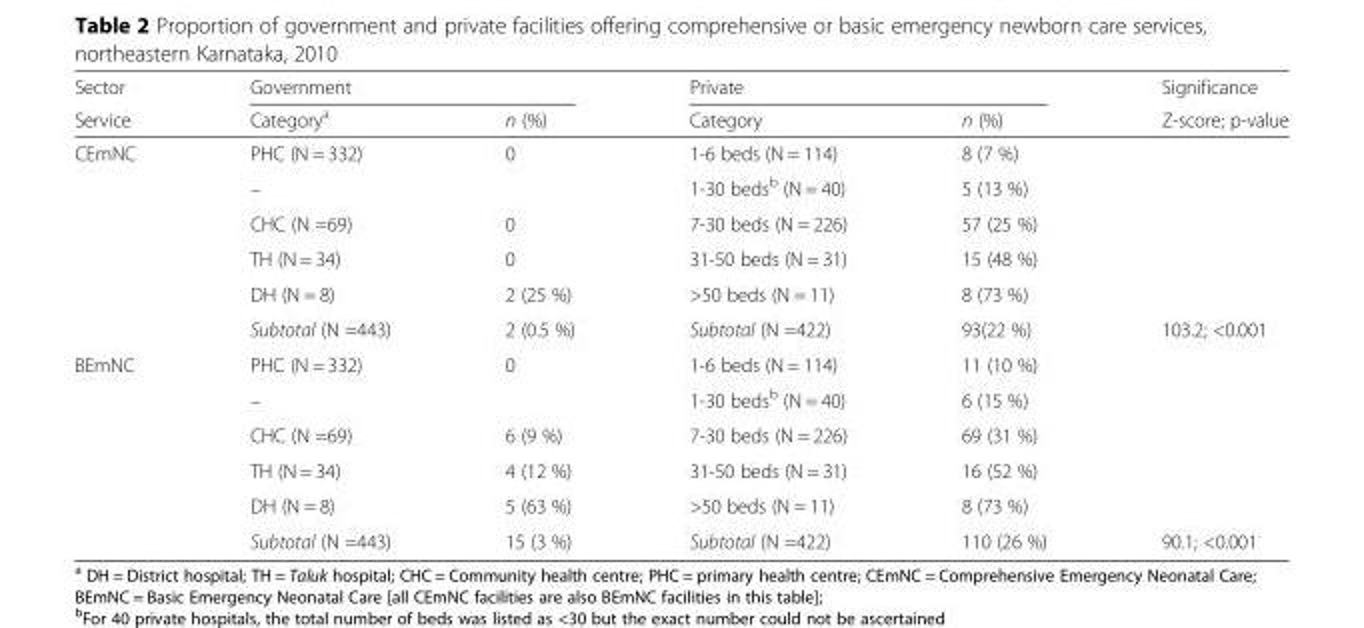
<table><thead><tr><td rowspan="2">Sector Service</td><td colspan="2">Government</td><td colspan="2">Private</td><td rowspan="2">Significance Z-score; p-value</td></tr><tr><td>Category<sup>a</sup></td><td>n (%)</td><td>Category</td><td>n (%)</td></tr></thead><tbody><tr><td rowspan="6">CEmNC</td><td>PHC (N = 332)</td><td>0</td><td>1-6 beds (N = 114)</td><td>8 (7 %)</td><td></td></tr><tr><td>–</td><td></td><td>1-30 beds<sup>b</sup> (N = 40)</td><td>5 (13 %)</td><td></td></tr><tr><td>CHC (N =69)</td><td>0</td><td>7-30 beds (N = 226)</td><td>57 (25 %)</td><td></td></tr><tr><td>TH (N = 34)</td><td>0</td><td>31-50 beds (N = 31)</td><td>15 (48 %)</td><td></td></tr><tr><td>DH (N = 8)</td><td>2 (25 %)</td><td>&gt;50 beds (N = 11)</td><td>8 (73 %)</td><td></td></tr><tr><td>Subtotal (N =443)</td><td>2 (0.5 %)</td><td>Subtotal (N =422)</td><td>93(22 %)</td><td>103.2; &lt;0.001</td></tr><tr><td rowspan="6">BEmNC</td><td>PHC (N = 332)</td><td>0</td><td>1-6 beds (N = 114)</td><td>11 (10 %)</td><td></td></tr><tr><td>–</td><td></td><td>1-30 beds<sup>b</sup> (N = 40)</td><td>6 (15 %)</td><td></td></tr><tr><td>CHC (N =69)</td><td>6 (9 %)</td><td>7-30 beds (N = 226)</td><td>69 (31 %)</td><td></td></tr><tr><td>TH (N = 34)</td><td>4 (12 %)</td><td>31-50 beds (N = 31)</td><td>16 (52 %)</td><td></td></tr><tr><td>DH (N = 8)</td><td>5 (63 %)</td><td>&gt;50 beds (N = 11)</td><td>8 (73 %)</td><td></td></tr><tr><td>Subtotal (N =443)</td><td>15 (3 %)</td><td>Subtotal (N =422)</td><td>110 (26 %)</td><td>90.1; &lt;0.001</td></tr></tbody></table>